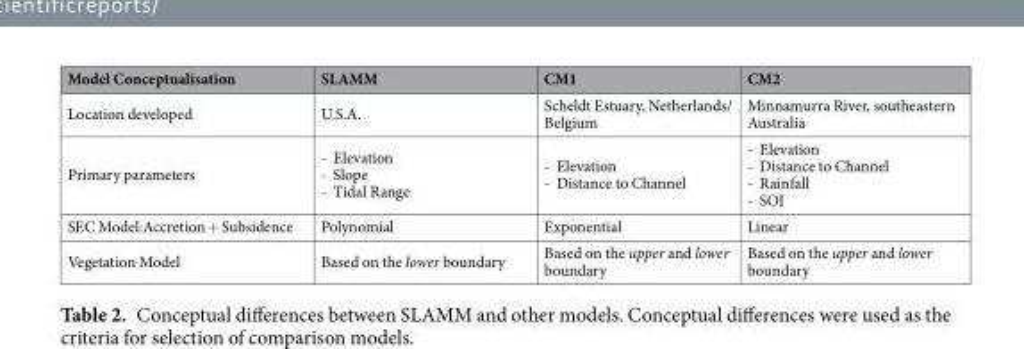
<table><thead><tr><td>Model Conceptualisation</td><td>SLAMM</td><td>CM1</td><td>CM2</td></tr></thead><tbody><tr><td>Location developed</td><td>U.S.A.</td><td>Scheldt Estuary, Netherlands/ Belgium</td><td>Minnamurra River, southeastern Australia</td></tr><tr><td>Primary parameters</td><td>- Elevation - Slope - Tidal Range</td><td>- Elevation - Distance to Channel</td><td>- Elevation - Distance to Channel - Rainfall - SOI</td></tr><tr><td>SEC Model:Accretion + Subsidence</td><td>Polynomial</td><td>Exponential</td><td>Linear</td></tr><tr><td>Vegetation Model</td><td>Based on the lower boundary</td><td>Based on the upper and lower boundary</td><td>Based on the upper and lower boundary</td></tr></tbody></table>